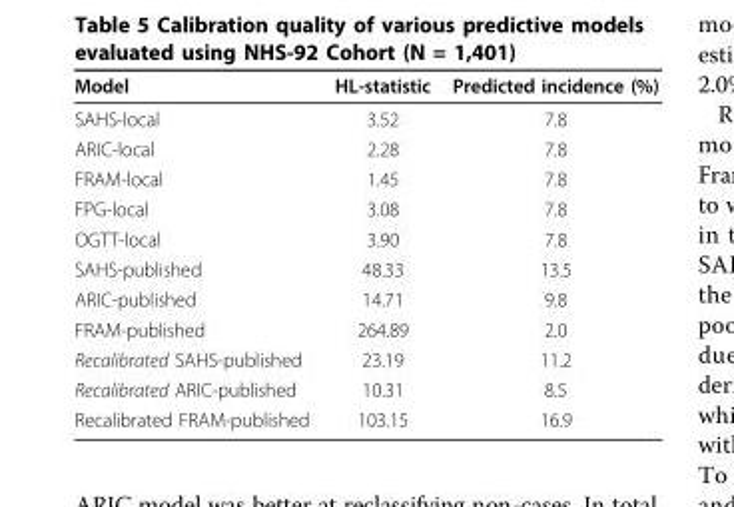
<table><thead><tr><td>Model</td><td>HL-statistic</td><td>Predicted incidence (%)</td></tr></thead><tbody><tr><td>SAHS-local</td><td>3.52</td><td>7.8</td></tr><tr><td>ARIC-local</td><td>2.28</td><td>7.8</td></tr><tr><td>FRAM-local</td><td>1.45</td><td>7.8</td></tr><tr><td>FPG-local</td><td>3.08</td><td>7.8</td></tr><tr><td>OGTT-local</td><td>3.90</td><td>7.8</td></tr><tr><td>SAHS-published</td><td>48.33</td><td>13.5</td></tr><tr><td>ARIC-published</td><td>14.71</td><td>9.8</td></tr><tr><td>FRAM-published</td><td>264.89</td><td>2.0</td></tr><tr><td>Recalibrated SAHS-published</td><td>23.19</td><td>11.2</td></tr><tr><td>Recalibrated ARIC-published</td><td>10.31</td><td>8.5</td></tr><tr><td>Recalibrated FRAM-published</td><td>103.15</td><td>16.9</td></tr></tbody></table>